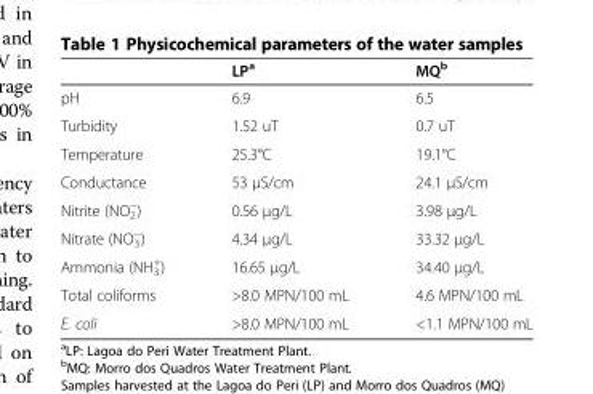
<table><thead><tr><td></td><td>LP<sup>a</sup></td><td>MQ<sup>b</sup></td></tr></thead><tbody><tr><td>pH</td><td>6.9</td><td>6.5</td></tr><tr><td>Turbidity</td><td>1.52 uT</td><td>0.7 uT</td></tr><tr><td>Temperature</td><td>25.3°C</td><td>19.1°C</td></tr><tr><td>Conductance</td><td>53 μS/cm</td><td>24.1 μS/cm</td></tr><tr><td>Nitrite (NO<sub>2</sub> <sup>−</sup>)</td><td>0.56 μg/L</td><td>3.98 μg/L</td></tr><tr><td>Nitrate (NO<sub>3</sub> <sup>−</sup>)</td><td>4.34 μg/L</td><td>33.32 μg/L</td></tr><tr><td>Ammonia (NH<sub>3</sub> <sup>+</sup>)</td><td>16.65 μg/L</td><td>34.40 μg/L</td></tr><tr><td>Total coliforms</td><td>&gt;8.0 MPN/100 mL</td><td>4.6 MPN/100 mL</td></tr><tr><td>E. coli</td><td>&gt;8.0 MPN/100 mL</td><td>&lt;1.1 MPN/100 mL</td></tr></tbody></table>